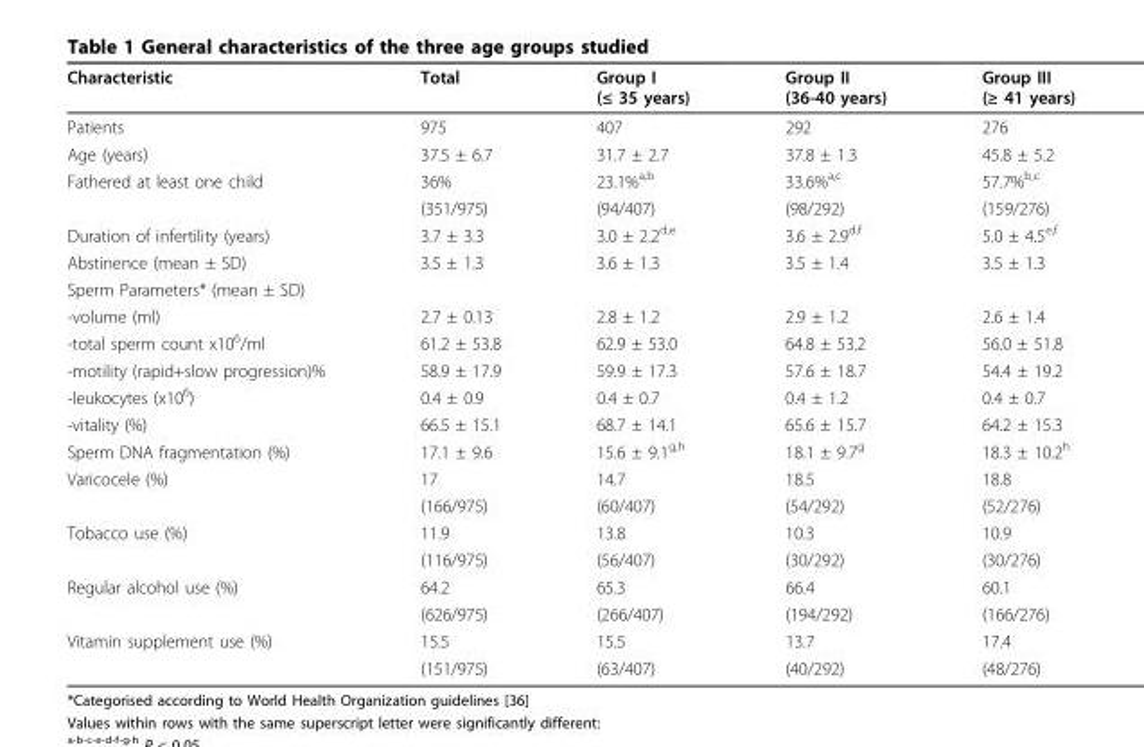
<table><thead><tr><td>Characteristic</td><td>Total</td><td>Group I (≤ 35 years)</td><td>Group II (36-40 years)</td><td>Group III (≥ 41 years)</td></tr></thead><tbody><tr><td>Patients</td><td>975</td><td>407</td><td>292</td><td>276</td></tr><tr><td>Age (years)</td><td>37.5 ± 6.7</td><td>31.7 ± 2.7</td><td>37.8 ± 1.3</td><td>45.8 ± 5.2</td></tr><tr><td rowspan="2">Fathered at least one child</td><td>36%</td><td>23.1%<sup>a,b</sup></td><td>33.6%<sup>a,c</sup></td><td>57.7%<sup>b,c</sup></td></tr><tr><td>(351/975)</td><td>(94/407)</td><td>(98/292)</td><td>(159/276)</td></tr><tr><td>Duration of infertility (years)</td><td>3.7 ± 3.3</td><td>3.0 ± 2.2<sup>d,e</sup></td><td>3.6 ± 2.9<sup>d,f</sup></td><td>5.0 ± 4.5<sup>e,f</sup></td></tr><tr><td>Abstinence (mean ± SD)</td><td>3.5 ± 1.3</td><td>3.6 ± 1.3</td><td>3.5 ± 1.4</td><td>3.5 ± 1.3</td></tr><tr><td colspan="5">Sperm Parameters* (mean ± SD)</td></tr><tr><td>-volume (ml)</td><td>2.7 ± 0.13</td><td>2.8 ± 1.2</td><td>2.9 ± 1.2</td><td>2.6 ± 1.4</td></tr><tr><td>-total sperm count x10<sup>6</sup>/ml</td><td>61.2 ± 53.8</td><td>62.9 ± 53.0</td><td>64.8 ± 53.2</td><td>56.0 ± 51.8</td></tr><tr><td>-motility (rapid+slow progression)%</td><td>58.9 ± 17.9</td><td>59.9 ± 17.3</td><td>57.6 ± 18.7</td><td>54.4 ± 19.2</td></tr><tr><td>-leukocytes (x10<sup>6</sup>)</td><td>0.4 ± 0.9</td><td>0.4 ± 0.7</td><td>0.4 ± 1.2</td><td>0.4 ± 0.7</td></tr><tr><td>-vitality (%)</td><td>66.5 ± 15.1</td><td>68.7 ± 14.1</td><td>65.6 ± 15.7</td><td>64.2 ± 15.3</td></tr><tr><td>Sperm DNA fragmentation (%)</td><td>17.1 ± 9.6</td><td>15.6 ± 9.1<sup>g,h</sup></td><td>18.1 ± 9.7<sup>g</sup></td><td>18.3 ± 10.2<sup>h</sup></td></tr><tr><td rowspan="2">Varicocele (%)</td><td>17</td><td>14.7</td><td>18.5</td><td>18.8</td></tr><tr><td>(166/975)</td><td>(60/407)</td><td>(54/292)</td><td>(52/276)</td></tr><tr><td rowspan="2">Tobacco use (%)</td><td>11.9</td><td>13.8</td><td>10.3</td><td>10.9</td></tr><tr><td>(116/975)</td><td>(56/407)</td><td>(30/292)</td><td>(30/276)</td></tr><tr><td rowspan="2">Regular alcohol use (%)</td><td>64.2</td><td>65.3</td><td>66.4</td><td>60.1</td></tr><tr><td>(626/975)</td><td>(266/407)</td><td>(194/292)</td><td>(166/276)</td></tr><tr><td rowspan="2">Vitamin supplement use (%)</td><td>15.5</td><td>15.5</td><td>13.7</td><td>17.4</td></tr><tr><td>(151/975)</td><td>(63/407)</td><td>(40/292)</td><td>(48/276)</td></tr></tbody></table>